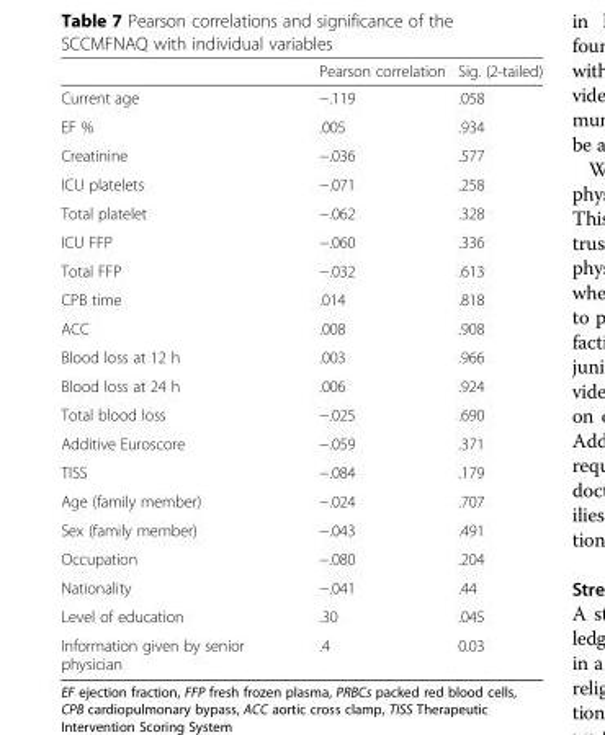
<table><thead><tr><td></td><td>Pearson correlation</td><td>Sig. (2-tailed)</td></tr></thead><tbody><tr><td>Current age</td><td>−.119</td><td>.058</td></tr><tr><td>EF %</td><td>.005</td><td>.934</td></tr><tr><td>Creatinine</td><td>−.036</td><td>.577</td></tr><tr><td>ICU platelets</td><td>−.071</td><td>.258</td></tr><tr><td>Total platelet</td><td>−.062</td><td>.328</td></tr><tr><td>ICU FFP</td><td>−.060</td><td>.336</td></tr><tr><td>Total FFP</td><td>−.032</td><td>.613</td></tr><tr><td>CPB time</td><td>.014</td><td>.818</td></tr><tr><td>ACC</td><td>.008</td><td>.908</td></tr><tr><td>Blood loss at 12 h</td><td>.003</td><td>.966</td></tr><tr><td>Blood loss at 24 h</td><td>.006</td><td>.924</td></tr><tr><td>Total blood loss</td><td>−.025</td><td>.690</td></tr><tr><td>Additive Euroscore</td><td>−.059</td><td>.371</td></tr><tr><td>TISS</td><td>−.084</td><td>.179</td></tr><tr><td>Age (family member)</td><td>−.024</td><td>.707</td></tr><tr><td>Sex (family member)</td><td>−.043</td><td>.491</td></tr><tr><td>Occupation</td><td>−.080</td><td>.204</td></tr><tr><td>Nationality</td><td>−.041</td><td>.44</td></tr><tr><td>Level of education</td><td>.30</td><td>.045</td></tr><tr><td>Information given by senior physician</td><td>.4</td><td>0.03</td></tr></tbody></table>